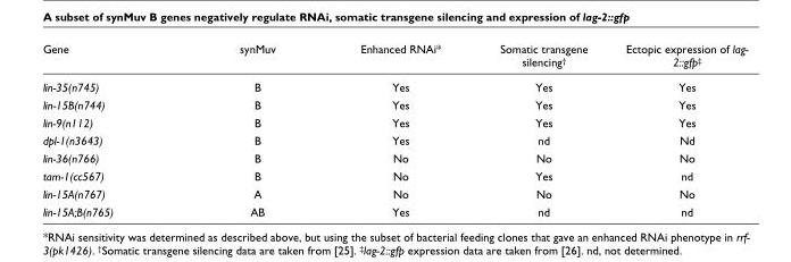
<table><thead><tr><td>Gene</td><td>synMuv</td><td>Enhanced RNAi*</td><td>Somatic transgene silencing†</td><td>Ectopic expression of lag- 2::gfp‡</td></tr></thead><tbody><tr><td>lin-35(n745)</td><td>B</td><td>Yes</td><td>Yes</td><td>Yes</td></tr><tr><td>lin-15B(n744)</td><td>B</td><td>Yes</td><td>Yes</td><td>Yes</td></tr><tr><td>lin-9(n112)</td><td>B</td><td>Yes</td><td>Yes</td><td>Yes</td></tr><tr><td>dpl-1(n3643)</td><td>B</td><td>Yes</td><td>nd</td><td>Nd</td></tr><tr><td>lin-36(n766)</td><td>B</td><td>No</td><td>No</td><td>No</td></tr><tr><td>tam-1(cc567)</td><td>B</td><td>No</td><td>Yes</td><td>nd</td></tr><tr><td>lin-15A(n767)</td><td>A</td><td>No</td><td>No</td><td>No</td></tr><tr><td>lin-15A;B(n765)</td><td>AB</td><td>Yes</td><td>nd</td><td>nd</td></tr></tbody></table>